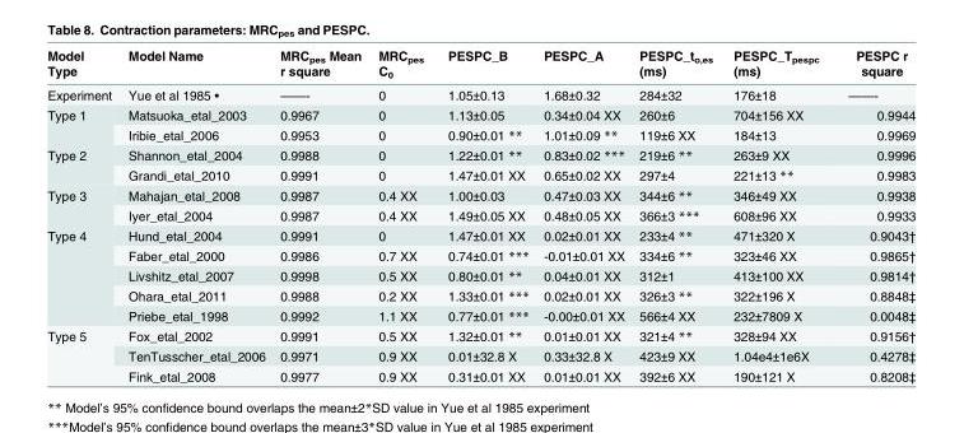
<table><thead><tr><td>Model Type</td><td>Model Name</td><td>MRC<sub>pes</sub> Mean r square</td><td>MRC<sub>pes</sub> C<sub>0</sub></td><td>PESPC_B</td><td>PESPC_A</td><td>PESPC_t<sub>o,es</sub> (ms)</td><td>PESPC_T<sub>pespc</sub> (ms)</td><td>PESPC r square</td></tr></thead><tbody><tr><td>Experiment</td><td>Yue et al 1985 •</td><td>——-</td><td>0</td><td>1.05±0.13</td><td>1.68±0.32</td><td>284±32</td><td>176±18</td><td>——-</td></tr><tr><td rowspan="2">Type 1</td><td>Matsuoka_etal_2003</td><td>0.9967</td><td>0</td><td>1.13±0.05</td><td>0.34±0.04 XX</td><td>260±6</td><td>704±156 XX</td><td>0.9944</td></tr><tr><td>Iribie_etal_2006</td><td>0.9953</td><td>0</td><td>0.90±0.01 **</td><td>1.01±0.09 **</td><td>119±6 XX</td><td>184±13</td><td>0.9969</td></tr><tr><td rowspan="2">Type 2</td><td>Shannon_etal_2004</td><td>0.9988</td><td>0</td><td>1.22±0.01 **</td><td>0.83±0.02 ***</td><td>219±6 **</td><td>263±9 XX</td><td>0.9996</td></tr><tr><td>Grandi_etal_2010</td><td>0.9991</td><td>0</td><td>1.47±0.01 XX</td><td>0.65±0.02 XX</td><td>297±4</td><td>221±13 **</td><td>0.9983</td></tr><tr><td rowspan="2">Type 3</td><td>Mahajan_etal_2008</td><td>0.9987</td><td>0.4 XX</td><td>1.00±0.03</td><td>0.47±0.03 XX</td><td>344±6 **</td><td>346±49 XX</td><td>0.9938</td></tr><tr><td>Iyer_etal_2004</td><td>0.9987</td><td>0.4 XX</td><td>1.49±0.05 XX</td><td>0.48±0.05 XX</td><td>366±3 ***</td><td>608±96 XX</td><td>0.9933</td></tr><tr><td rowspan="5">Type 4</td><td>Hund_etal_2004</td><td>0.9991</td><td>0</td><td>1.47±0.01 XX</td><td>0.02±0.01 XX</td><td>233±4 **</td><td>471±320 X</td><td>0.9043†</td></tr><tr><td>Faber_etal_2000</td><td>0.9986</td><td>0.7 XX</td><td>0.74±0.01 ***</td><td>-0.01±0.01 XX</td><td>334±6 **</td><td>323±46 XX</td><td>0.9865†</td></tr><tr><td>Livshitz_etal_2007</td><td>0.9998</td><td>0.5 XX</td><td>0.80±0.01 **</td><td>0.04±0.01 XX</td><td>312±1</td><td>413±100 XX</td><td>0.9814†</td></tr><tr><td>Ohara_etal_2011</td><td>0.9988</td><td>0.2 XX</td><td>1.33±0.01 ***</td><td>0.02±0.01 XX</td><td>326±3 **</td><td>322±196 X</td><td>0.8848‡</td></tr><tr><td>Priebe_etal_1998</td><td>0.9992</td><td>1.1 XX</td><td>0.77±0.01 ***</td><td>-0.00±0.01 XX</td><td>566±4 XX</td><td>232±7809 X</td><td>0.0048‡</td></tr><tr><td rowspan="3">Type 5</td><td>Fox_etal_2002</td><td>0.9991</td><td>0.5 XX</td><td>1.32±0.01 **</td><td>0.01±0.01 XX</td><td>321±4 **</td><td>328±94 XX</td><td>0.9156†</td></tr><tr><td>TenTusscher_etal_2006</td><td>0.9971</td><td>0.9 XX</td><td>0.01±32.8 X</td><td>0.33±32.8 X</td><td>423±9 XX</td><td>1.04e4±1e6<sup>X</sup></td><td>0.4278‡</td></tr><tr><td>Fink_etal_2008</td><td>0.9977</td><td>0.9 XX</td><td>0.31±0.01 XX</td><td>0.01±0.01 XX</td><td>392±6 XX</td><td>190±121 X</td><td>0.8208‡</td></tr></tbody></table>